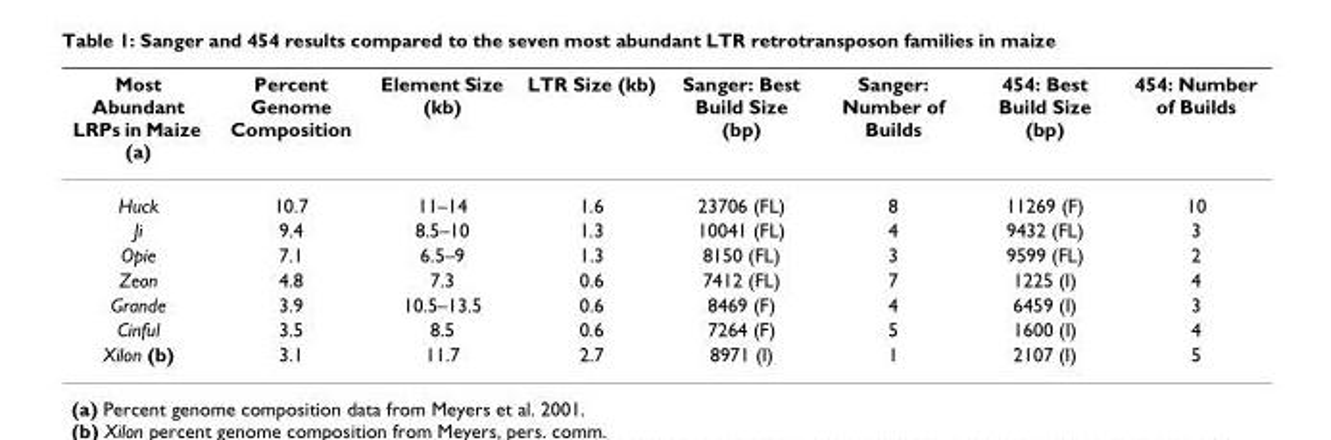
<table><thead><tr><td>Most Abundant LRPs in Maize (a)</td><td>Percent Genome Composition</td><td>Element Size (kb)</td><td>LTR Size (kb)</td><td>Sanger: Best Build Size (bp)</td><td>Sanger: Number of Builds</td><td>454: Best Build Size (bp)</td><td>454: Number of Builds</td></tr></thead><tbody><tr><td>Huck</td><td>10.7</td><td>11–14</td><td>1.6</td><td>23706 (FL)</td><td>8</td><td>11269 (F)</td><td>10</td></tr><tr><td>Ji</td><td>9.4</td><td>8.5–10</td><td>1.3</td><td>10041 (FL)</td><td>4</td><td>9432 (FL)</td><td>3</td></tr><tr><td>Opie</td><td>7.1</td><td>6.5–9</td><td>1.3</td><td>8150 (FL)</td><td>3</td><td>9599 (FL)</td><td>2</td></tr><tr><td>Zeon</td><td>4.8</td><td>7.3</td><td>0.6</td><td>7412 (FL)</td><td>7</td><td>1225 (I)</td><td>4</td></tr><tr><td>Grande</td><td>3.9</td><td>10.5–13.5</td><td>0.6</td><td>8469 (F)</td><td>4</td><td>6459 (I)</td><td>3</td></tr><tr><td>Cinful</td><td>3.5</td><td>8.5</td><td>0.6</td><td>7264 (F)</td><td>5</td><td>1600 (I)</td><td>4</td></tr><tr><td>Xilon (b)</td><td>3.1</td><td>11.7</td><td>2.7</td><td>8971 (I)</td><td>1</td><td>2107 (I)</td><td>5</td></tr></tbody></table>